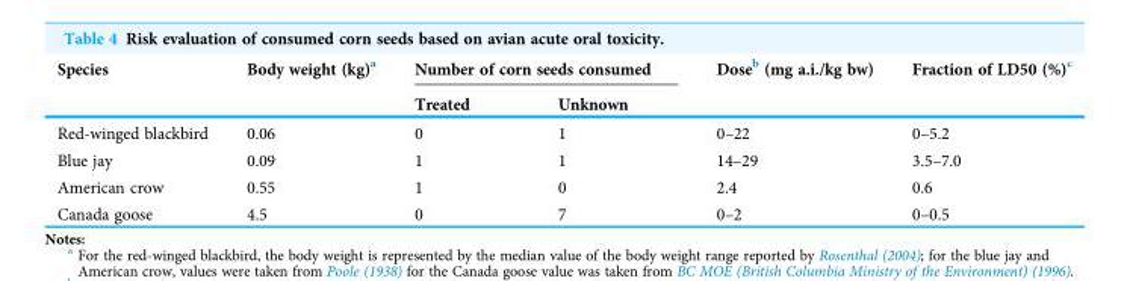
<table><thead><tr><td rowspan="2">Species</td><td rowspan="2">Body weight (kg)<sup>a</sup></td><td colspan="2">Number of corn seeds consumed</td><td rowspan="2">Dose<sup>b</sup> (mg a.i./kg bw)</td><td rowspan="2">Fraction of LD50 (%)<sup>c</sup></td></tr><tr><td>Treated</td><td>Unknown</td></tr></thead><tbody><tr><td>Red-winged blackbird</td><td>0.06</td><td>0</td><td>1</td><td>0–22</td><td>0–5.2</td></tr><tr><td>Blue jay</td><td>0.09</td><td>1</td><td>1</td><td>14–29</td><td>3.5–7.0</td></tr><tr><td>American crow</td><td>0.55</td><td>1</td><td>0</td><td>2.4</td><td>0.6</td></tr><tr><td>Canada goose</td><td>4.5</td><td>0</td><td>7</td><td>0–2</td><td>0–0.5</td></tr></tbody></table>